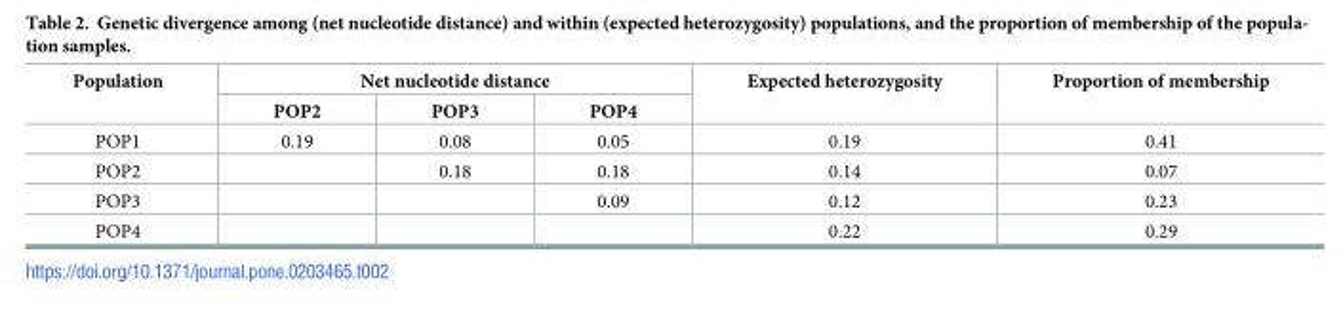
<table><thead><tr><td rowspan="2">Population</td><td colspan="3">Net nucleotide distance</td><td rowspan="2">Expected heterozygosity</td><td rowspan="2">Proportion of membership</td></tr><tr><td>POP2</td><td>POP3</td><td>POP4</td></tr></thead><tbody><tr><td>POP1</td><td>0.19</td><td>0.08</td><td>0.05</td><td>0.19</td><td>0.41</td></tr><tr><td>POP2</td><td></td><td>0.18</td><td>0.18</td><td>0.14</td><td>0.07</td></tr><tr><td>POP3</td><td></td><td></td><td>0.09</td><td>0.12</td><td>0.23</td></tr><tr><td>POP4</td><td></td><td></td><td></td><td>0.22</td><td>0.29</td></tr></tbody></table>